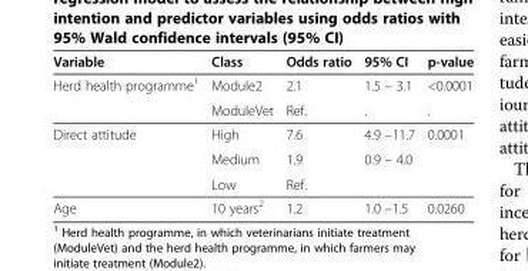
<table><thead><tr><td>Variable</td><td>Class</td><td>Odds ratio</td><td>95% CI</td><td>p-value</td></tr></thead><tbody><tr><td rowspan="2">Herd health programme<sup>1</sup></td><td>Module2</td><td>2.1</td><td>1.5 – 3.1</td><td>&lt;0.0001</td></tr><tr><td>ModuleVet</td><td>Ref.</td><td>.</td><td>.</td></tr><tr><td rowspan="3">Direct attitude</td><td>High</td><td>7.6</td><td>4.9 –11.7</td><td>0.0001</td></tr><tr><td>Medium</td><td>1.9</td><td>0.9 – 4.0</td><td></td></tr><tr><td>Low</td><td>Ref.</td><td></td><td></td></tr><tr><td>Age</td><td>10 years<sup>2</sup></td><td>1.2</td><td>1.0 –1.5</td><td>0.0260</td></tr></tbody></table>